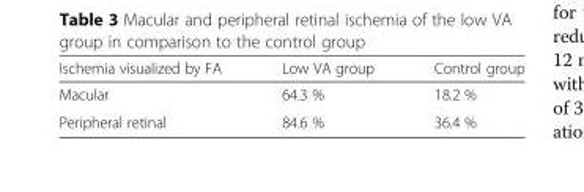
<table><thead><tr><td>Ischemia visualized by FA</td><td>Low VA group</td><td>Control group</td></tr></thead><tbody><tr><td>Macular</td><td>64.3 %</td><td>18.2 %</td></tr><tr><td>Peripheral retinal</td><td>84.6 %</td><td>36.4 %</td></tr></tbody></table>